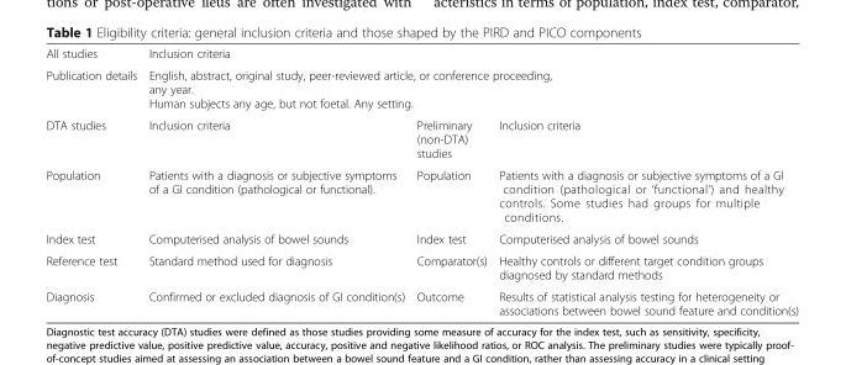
<table><tbody><tr><td>All studies</td><td colspan="3">Inclusion criteria</td></tr><tr><td>Publication details</td><td colspan="3">English, abstract, original study, peer-reviewed article, or conference proceeding, any year. Human subjects any age, but not foetal. Any setting.</td></tr><tr><td>DTA studies</td><td>Inclusion criteria</td><td>Preliminary (non-DTA) studies</td><td>Inclusion criteria</td></tr><tr><td>Population</td><td>Patients with a diagnosis or subjective symptoms of a GI condition (pathological or functional).</td><td>Population</td><td>Patients with a diagnosis or subjective symptoms of a GI condition (pathological or ‘functional’) and healthy controls. Some studies had groups for multiple conditions.</td></tr><tr><td>Index test</td><td>Computerised analysis of bowel sounds</td><td>Index test</td><td>Computerised analysis of bowel sounds</td></tr><tr><td>Reference test</td><td>Standard method used for diagnosis</td><td>Comparator(s)</td><td>Healthy controls or different target condition groups diagnosed by standard methods</td></tr><tr><td>Diagnosis</td><td>Confirmed or excluded diagnosis of GI condition(s)</td><td>Outcome</td><td>Results of statistical analysis testing for heterogeneity or associations between bowel sound feature and condition(s)</td></tr></tbody></table>